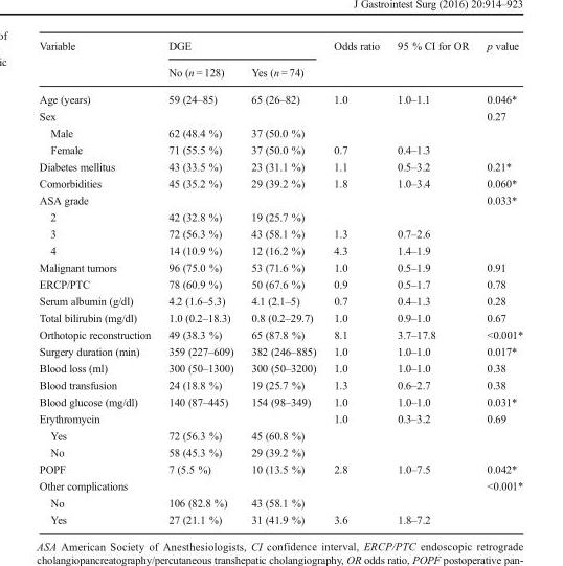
<table><thead><tr><td rowspan="2">Variable</td><td colspan="2">DGE</td><td rowspan="2">Odds ratio</td><td rowspan="2">95 % CI for OR</td><td rowspan="2">p value</td></tr><tr><td>No (n = 128)</td><td>Yes (n = 74)</td></tr></thead><tbody><tr><td>Age (years)</td><td>59 (24–85)</td><td>65 (26–82)</td><td>1.0</td><td>1.0–1.1</td><td>0.046*</td></tr><tr><td>Sex</td><td></td><td></td><td></td><td></td><td>0.27</td></tr><tr><td>Male</td><td>62 (48.4 %)</td><td>37 (50.0 %)</td><td></td><td></td><td></td></tr><tr><td>Female</td><td>71 (55.5 %)</td><td>37 (50.0 %)</td><td>0.7</td><td>0.4–1.3</td><td></td></tr><tr><td>Diabetes mellitus</td><td>43 (33.5 %)</td><td>23 (31.1 %)</td><td>1.1</td><td>0.5–3.2</td><td>0.21*</td></tr><tr><td>Comorbidities</td><td>45 (35.2 %)</td><td>29 (39.2 %)</td><td>1.8</td><td>1.0–3.4</td><td>0.060*</td></tr><tr><td>ASA grade</td><td></td><td></td><td></td><td></td><td>0.033*</td></tr><tr><td>2</td><td>42 (32.8 %)</td><td>19 (25.7 %)</td><td></td><td></td><td></td></tr><tr><td>3</td><td>72 (56.3 %)</td><td>43 (58.1 %)</td><td>1.3</td><td>0.7–2.6</td><td></td></tr><tr><td>4</td><td>14 (10.9 %)</td><td>12 (16.2 %)</td><td>4.3</td><td>1.4–1.9</td><td></td></tr><tr><td>Malignant tumors</td><td>96 (75.0 %)</td><td>53 (71.6 %)</td><td>1.0</td><td>0.5–1.9</td><td>0.91</td></tr><tr><td>ERCP/PTC</td><td>78 (60.9 %)</td><td>50 (67.6 %)</td><td>0.9</td><td>0.5–1.7</td><td>0.78</td></tr><tr><td>Serum albumin (g/dl)</td><td>4.2 (1.6–5.3)</td><td>4.1 (2.1–5)</td><td>0.7</td><td>0.4–1.3</td><td>0.28</td></tr><tr><td>Total bilirubin (mg/dl)</td><td>1.0 (0.2–18.3)</td><td>0.8 (0.2–29.7)</td><td>1.0</td><td>0.9–1.0</td><td>0.67</td></tr><tr><td>Orthotopic reconstruction</td><td>49 (38.3 %)</td><td>65 (87.8 %)</td><td>8.1</td><td>3.7–17.8</td><td>&lt;0.001*</td></tr><tr><td>Surgery duration (min)</td><td>359 (227–609)</td><td>382 (246–885)</td><td>1.0</td><td>1.0–1.0</td><td>0.017*</td></tr><tr><td>Blood loss (ml)</td><td>300 (50–1300)</td><td>300 (50–3200)</td><td>1.0</td><td>1.0–1.0</td><td>0.38</td></tr><tr><td>Blood transfusion</td><td>24 (18.8 %)</td><td>19 (25.7 %)</td><td>1.3</td><td>0.6–2.7</td><td>0.38</td></tr><tr><td>Blood glucose (mg/dl)</td><td>140 (87–445)</td><td>154 (98–349)</td><td>1.0</td><td>1.0–1.0</td><td>0.031*</td></tr><tr><td>Erythromycin</td><td></td><td></td><td>1.0</td><td>0.3–3.2</td><td>0.69</td></tr><tr><td>Yes</td><td>72 (56.3 %)</td><td>45 (60.8 %)</td><td></td><td></td><td></td></tr><tr><td>No</td><td>58 (45.3 %)</td><td>29 (39.2 %)</td><td></td><td></td><td></td></tr><tr><td>POPF</td><td>7 (5.5 %)</td><td>10 (13.5 %)</td><td>2.8</td><td>1.0–7.5</td><td>0.042*</td></tr><tr><td>Other complications</td><td></td><td></td><td></td><td></td><td>&lt;0.001*</td></tr><tr><td>No</td><td>106 (82.8 %)</td><td>43 (58.1 %)</td><td></td><td></td><td></td></tr><tr><td>Yes</td><td>27 (21.1 %)</td><td>31 (41.9 %)</td><td>3.6</td><td>1.8–7.2</td><td></td></tr></tbody></table>